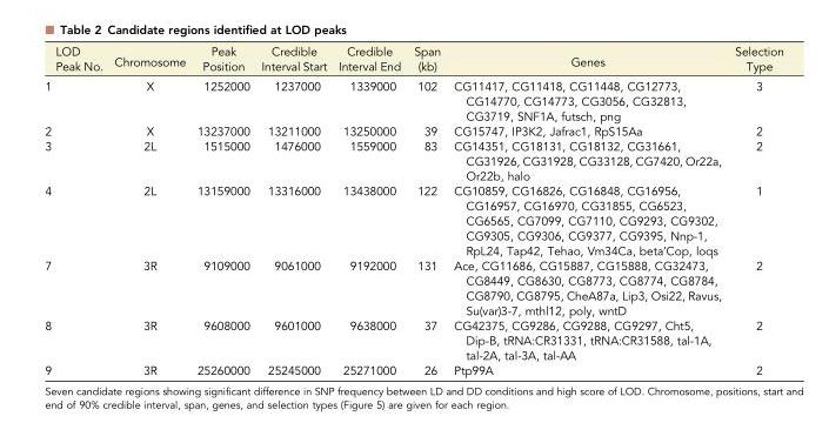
<table><thead><tr><td>LOD Peak No.</td><td>Chromosome</td><td>Peak Position</td><td>Credible Interval Start</td><td>Credible Interval End</td><td>Span (kb)</td><td>Genes</td><td>Selection Type</td></tr></thead><tbody><tr><td>1</td><td>X</td><td>1252000</td><td>1237000</td><td>1339000</td><td>102</td><td>CG11417, CG11418, CG11448, CG12773, CG14770, CG14773, CG3056, CG32813, CG3719, SNF1A, futsch, png</td><td>3</td></tr><tr><td>2</td><td>X</td><td>13237000</td><td>13211000</td><td>13250000</td><td>39</td><td>CG15747, IP3K2, Jafrac1, RpS15Aa</td><td>2</td></tr><tr><td>3</td><td>2L</td><td>1515000</td><td>1476000</td><td>1559000</td><td>83</td><td>CG14351, CG18131, CG18132, CG31661, CG31926, CG31928, CG33128, CG7420, Or22a, Or22b, halo</td><td>2</td></tr><tr><td>4</td><td>2L</td><td>13159000</td><td>13316000</td><td>13438000</td><td>122</td><td>CG10859, CG16826, CG16848, CG16956, CG16957, CG16970, CG31855, CG6523, CG6565, CG7099, CG7110, CG9293, CG9302, CG9305, CG9306, CG9377, CG9395, Nnp-1, RpL24, Tap42, Tehao, Vm34Ca, beta’Cop, loqs</td><td>1</td></tr><tr><td>7</td><td>3R</td><td>9109000</td><td>9061000</td><td>9192000</td><td>131</td><td>Ace, CG11686, CG15887, CG15888, CG32473, CG8449, CG8630, CG8773, CG8774, CG8784, CG8790, CG8795, CheA87a, Lip3, Osi22, Ravus, Su(var)3-7, mthl12, poly, wntD</td><td>2</td></tr><tr><td>8</td><td>3R</td><td>9608000</td><td>9601000</td><td>9638000</td><td>37</td><td>CG42375, CG9286, CG9288, CG9297, Cht5, Dip-B, tRNA:CR31331, tRNA:CR31588, tal-1A, tal-2A, tal-3A, tal-AA</td><td>2</td></tr><tr><td>9</td><td>3R</td><td>25260000</td><td>25245000</td><td>25271000</td><td>26</td><td>Ptp99A</td><td>2</td></tr></tbody></table>